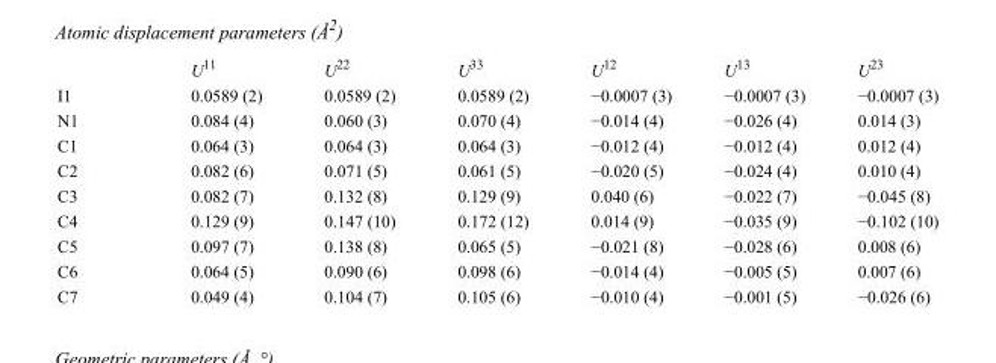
<table><thead><tr><td></td><td>U<sup>11</sup></td><td>U<sup>22</sup></td><td>U<sup>33</sup></td><td>U<sup>12</sup></td><td>U<sup>13</sup></td><td>U<sup>23</sup></td></tr></thead><tbody><tr><td>I1</td><td>0.0589 (2)</td><td>0.0589 (2)</td><td>0.0589 (2)</td><td>−0.0007 (3)</td><td>−0.0007 (3)</td><td>−0.0007 (3)</td></tr><tr><td>N1</td><td>0.084 (4)</td><td>0.060 (3)</td><td>0.070 (4)</td><td>−0.014 (4)</td><td>−0.026 (4)</td><td>0.014 (3)</td></tr><tr><td>C1</td><td>0.064 (3)</td><td>0.064 (3)</td><td>0.064 (3)</td><td>−0.012 (4)</td><td>−0.012 (4)</td><td>0.012 (4)</td></tr><tr><td>C2</td><td>0.082 (6)</td><td>0.071 (5)</td><td>0.061 (5)</td><td>−0.020 (5)</td><td>−0.024 (4)</td><td>0.010 (4)</td></tr><tr><td>C3</td><td>0.082 (7)</td><td>0.132 (8)</td><td>0.129 (9)</td><td>0.040 (6)</td><td>−0.022 (7)</td><td>−0.045 (8)</td></tr><tr><td>C4</td><td>0.129 (9)</td><td>0.147 (10)</td><td>0.172 (12)</td><td>0.014 (9)</td><td>−0.035 (9)</td><td>−0.102 (10)</td></tr><tr><td>C5</td><td>0.097 (7)</td><td>0.138 (8)</td><td>0.065 (5)</td><td>−0.021 (8)</td><td>−0.028 (6)</td><td>0.008 (6)</td></tr><tr><td>C6</td><td>0.064 (5)</td><td>0.090 (6)</td><td>0.098 (6)</td><td>−0.014 (4)</td><td>−0.005 (5)</td><td>0.007 (6)</td></tr><tr><td>C7</td><td>0.049 (4)</td><td>0.104 (7)</td><td>0.105 (6)</td><td>−0.010 (4)</td><td>−0.001 (5)</td><td>−0.026 (6)</td></tr></tbody></table>